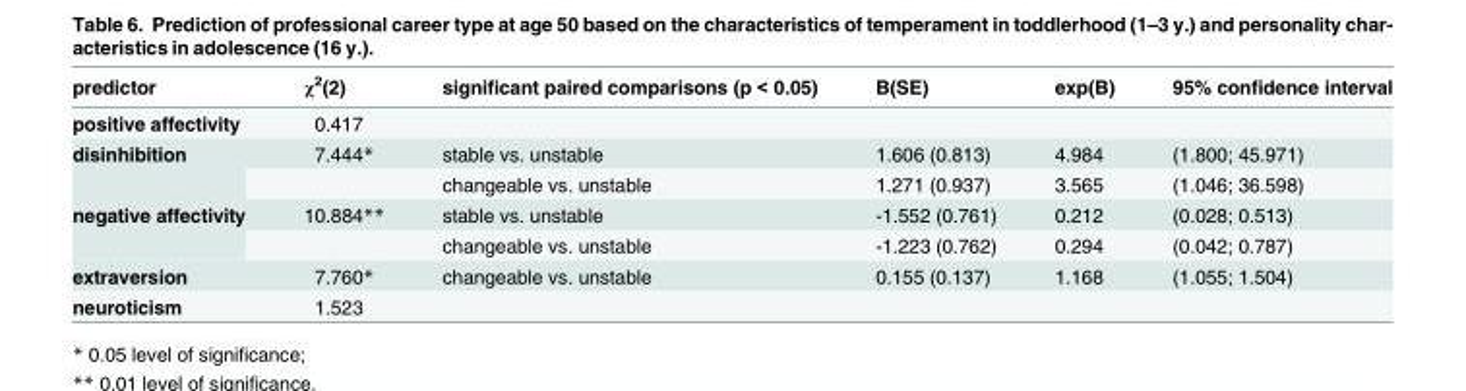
<table><thead><tr><td>predictor</td><td>χ<sup>2</sup>(2)</td><td>significant paired comparisons (p &lt; 0.05)</td><td>B(SE)</td><td>exp(B)</td><td>95% confidence interval</td></tr></thead><tbody><tr><td>positive affectivity</td><td>0.417</td><td></td><td></td><td></td><td></td></tr><tr><td rowspan="2">disinhibition</td><td>7.444*</td><td>stable vs. unstable</td><td>1.606 (0.813)</td><td>4.984</td><td>(1.800; 45.971)</td></tr><tr><td></td><td>changeable vs. unstable</td><td>1.271 (0.937)</td><td>3.565</td><td>(1.046; 36.598)</td></tr><tr><td rowspan="2">negative affectivity</td><td>10.884**</td><td>stable vs. unstable</td><td>-1.552 (0.761)</td><td>0.212</td><td>(0.028; 0.513)</td></tr><tr><td></td><td>changeable vs. unstable</td><td>-1.223 (0.762)</td><td>0.294</td><td>(0.042; 0.787)</td></tr><tr><td>extraversion</td><td>7.760*</td><td>changeable vs. unstable</td><td>0.155 (0.137)</td><td>1.168</td><td>(1.055; 1.504)</td></tr><tr><td>neuroticism</td><td>1.523</td><td></td><td></td><td></td><td></td></tr></tbody></table>